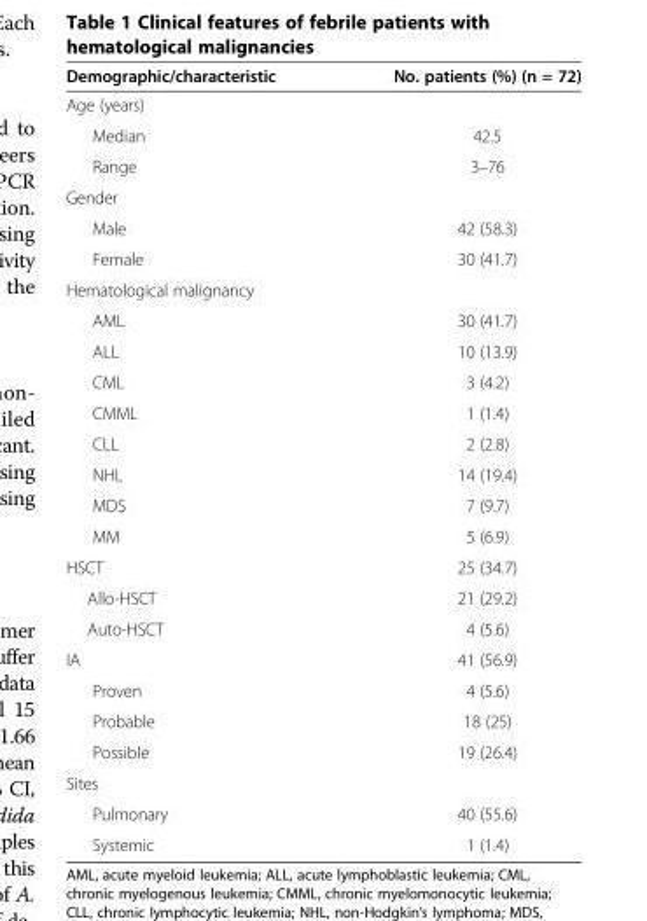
<table><thead><tr><td>Demographic/characteristic</td><td>No. patients (%) (n = 72)</td></tr></thead><tbody><tr><td colspan="2">Age (years)</td></tr><tr><td>Median</td><td>42.5</td></tr><tr><td>Range</td><td>3–76</td></tr><tr><td colspan="2">Gender</td></tr><tr><td>Male</td><td>42 (58.3)</td></tr><tr><td>Female</td><td>30 (41.7)</td></tr><tr><td colspan="2">Hematological malignancy</td></tr><tr><td>AML</td><td>30 (41.7)</td></tr><tr><td>ALL</td><td>10 (13.9)</td></tr><tr><td>CML</td><td>3 (4.2)</td></tr><tr><td>CMML</td><td>1 (1.4)</td></tr><tr><td>CLL</td><td>2 (2.8)</td></tr><tr><td>NHL</td><td>14 (19.4)</td></tr><tr><td>MDS</td><td>7 (9.7)</td></tr><tr><td>MM</td><td>5 (6.9)</td></tr><tr><td>HSCT</td><td>25 (34.7)</td></tr><tr><td>Allo-HSCT</td><td>21 (29.2)</td></tr><tr><td>Auto-HSCT</td><td>4 (5.6)</td></tr><tr><td>IA</td><td>41 (56.9)</td></tr><tr><td>Proven</td><td>4 (5.6)</td></tr><tr><td>Probable</td><td>18 (25)</td></tr><tr><td>Possible</td><td>19 (26.4)</td></tr><tr><td colspan="2">Sites</td></tr><tr><td>Pulmonary</td><td>40 (55.6)</td></tr><tr><td>Systemic</td><td>1 (1.4)</td></tr></tbody></table>